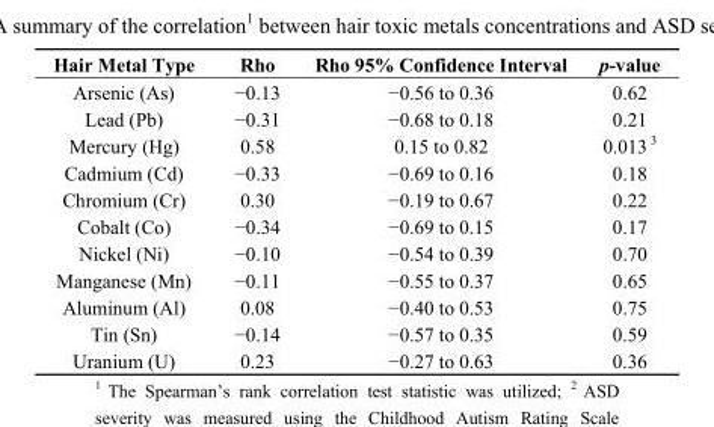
<table><thead><tr><td>Hair Metal Type</td><td>Rho</td><td>Rho 95% Confidence Interval</td><td>p-value</td></tr></thead><tbody><tr><td>Arsenic (As)</td><td>−0.13</td><td>−0.56 to 0.36</td><td>0.62</td></tr><tr><td>Lead (Pb)</td><td>−0.31</td><td>−0.68 to 0.18</td><td>0.21</td></tr><tr><td>Mercury (Hg)</td><td>0.58</td><td>0.15 to 0.82</td><td>0.013 <sup>3</sup></td></tr><tr><td>Cadmium (Cd)</td><td>−0.33</td><td>−0.69 to 0.16</td><td>0.18</td></tr><tr><td>Chromium (Cr)</td><td>0.30</td><td>−0.19 to 0.67</td><td>0.22</td></tr><tr><td>Cobalt (Co)</td><td>−0.34</td><td>−0.69 to 0.15</td><td>0.17</td></tr><tr><td>Nickel (Ni)</td><td>−0.10</td><td>−0.54 to 0.39</td><td>0.70</td></tr><tr><td>Manganese (Mn)</td><td>−0.11</td><td>−0.55 to 0.37</td><td>0.65</td></tr><tr><td>Aluminum (Al)</td><td>0.08</td><td>−0.40 to 0.53</td><td>0.75</td></tr><tr><td>Tin (Sn)</td><td>−0.14</td><td>−0.57 to 0.35</td><td>0.59</td></tr><tr><td>Uranium (U)</td><td>0.23</td><td>−0.27 to 0.63</td><td>0.36</td></tr></tbody></table>